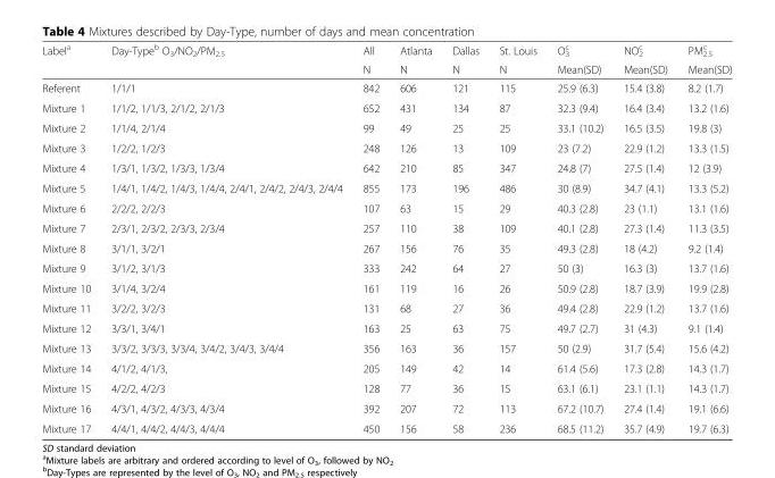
<table><thead><tr><td rowspan="2">Label<sup>a</sup></td><td rowspan="2">Day-Type<sup>b</sup> O<sub>3</sub>/NO<sub>2</sub>/PM<sub>2.5</sub></td><td rowspan="2">All N</td><td rowspan="2">Atlanta N</td><td rowspan="2">Dallas N</td><td rowspan="2">St. Louis N</td><td rowspan="2">O<sub>3</sub> <sup>c</sup> Mean(SD)</td><td rowspan="2">NO<sub>2</sub> <sup>c</sup> Mean(SD)</td><td rowspan="2">PM<sub>2.5</sub> <sup>c</sup> Mean(SD)</td></tr><tr></tr></thead><tbody><tr><td>Referent</td><td>1/1/1</td><td>842</td><td>606</td><td>121</td><td>115</td><td>25.9 (6.3)</td><td>15.4 (3.8)</td><td>8.2 (1.7)</td></tr><tr><td>Mixture 1</td><td>1/1/2, 1/1/3, 2/1/2, 2/1/3</td><td>652</td><td>431</td><td>134</td><td>87</td><td>32.3 (9.4)</td><td>16.4 (3.4)</td><td>13.2 (1.6)</td></tr><tr><td>Mixture 2</td><td>1/1/4, 2/1/4</td><td>99</td><td>49</td><td>25</td><td>25</td><td>33.1 (10.2)</td><td>16.5 (3.5)</td><td>19.8 (3)</td></tr><tr><td>Mixture 3</td><td>1/2/2, 1/2/3</td><td>248</td><td>126</td><td>13</td><td>109</td><td>23 (7.2)</td><td>22.9 (1.2)</td><td>13.3 (1.5)</td></tr><tr><td>Mixture 4</td><td>1/3/1, 1/3/2, 1/3/3, 1/3/4</td><td>642</td><td>210</td><td>85</td><td>347</td><td>24.8 (7)</td><td>27.5 (1.4)</td><td>12 (3.9)</td></tr><tr><td>Mixture 5</td><td>1/4/1, 1/4/2, 1/4/3, 1/4/4, 2/4/1, 2/4/2, 2/4/3, 2/4/4</td><td>855</td><td>173</td><td>196</td><td>486</td><td>30 (8.9)</td><td>34.7 (4.1)</td><td>13.3 (5.2)</td></tr><tr><td>Mixture 6</td><td>2/2/2, 2/2/3</td><td>107</td><td>63</td><td>15</td><td>29</td><td>40.3 (2.8)</td><td>23 (1.1)</td><td>13.1 (1.6)</td></tr><tr><td>Mixture 7</td><td>2/3/1, 2/3/2, 2/3/3, 2/3/4</td><td>257</td><td>110</td><td>38</td><td>109</td><td>40.1 (2.8)</td><td>27.3 (1.4)</td><td>11.3 (3.5)</td></tr><tr><td>Mixture 8</td><td>3/1/1, 3/2/1</td><td>267</td><td>156</td><td>76</td><td>35</td><td>49.3 (2.8)</td><td>18 (4.2)</td><td>9.2 (1.4)</td></tr><tr><td>Mixture 9</td><td>3/1/2, 3/1/3</td><td>333</td><td>242</td><td>64</td><td>27</td><td>50 (3)</td><td>16.3 (3)</td><td>13.7 (1.6)</td></tr><tr><td>Mixture 10</td><td>3/1/4, 3/2/4</td><td>161</td><td>119</td><td>16</td><td>26</td><td>50.9 (2.8)</td><td>18.7 (3.9)</td><td>19.9 (2.8)</td></tr><tr><td>Mixture 11</td><td>3/2/2, 3/2/3</td><td>131</td><td>68</td><td>27</td><td>36</td><td>49.4 (2.8)</td><td>22.9 (1.2)</td><td>13.7 (1.6)</td></tr><tr><td>Mixture 12</td><td>3/3/1, 3/4/1</td><td>163</td><td>25</td><td>63</td><td>75</td><td>49.7 (2.7)</td><td>31 (4.3)</td><td>9.1 (1.4)</td></tr><tr><td>Mixture 13</td><td>3/3/2, 3/3/3, 3/3/4, 3/4/2, 3/4/3, 3/4/4</td><td>356</td><td>163</td><td>36</td><td>157</td><td>50 (2.9)</td><td>31.7 (5.4)</td><td>15.6 (4.2)</td></tr><tr><td>Mixture 14</td><td>4/1/2, 4/1/3,</td><td>205</td><td>149</td><td>42</td><td>14</td><td>61.4 (5.6)</td><td>17.3 (2.8)</td><td>14.3 (1.7)</td></tr><tr><td>Mixture 15</td><td>4/2/2, 4/2/3</td><td>128</td><td>77</td><td>36</td><td>15</td><td>63.1 (6.1)</td><td>23.1 (1.1)</td><td>14.3 (1.7)</td></tr><tr><td>Mixture 16</td><td>4/3/1, 4/3/2, 4/3/3, 4/3/4</td><td>392</td><td>207</td><td>72</td><td>113</td><td>67.2 (10.7)</td><td>27.4 (1.4)</td><td>19.1 (6.6)</td></tr><tr><td>Mixture 17</td><td>4/4/1, 4/4/2, 4/4/3, 4/4/4</td><td>450</td><td>156</td><td>58</td><td>236</td><td>68.5 (11.2)</td><td>35.7 (4.9)</td><td>19.7 (6.3)</td></tr></tbody></table>